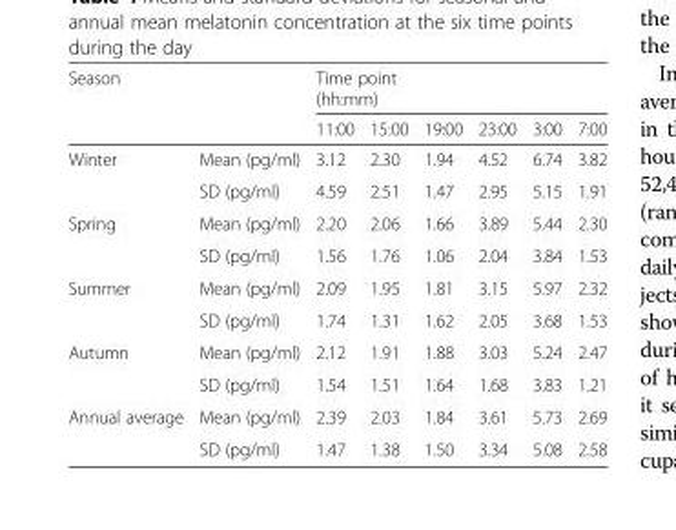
<table><thead><tr><td rowspan="2">Season</td><td rowspan="2"></td><td colspan="6">Time point (hh:mm)</td></tr><tr><td>11:00</td><td>15:00</td><td>19:00</td><td>23:00</td><td>3:00</td><td>7:00</td></tr></thead><tbody><tr><td rowspan="2">Winter</td><td>Mean (pg/ml)</td><td>3.12</td><td>2.30</td><td>1.94</td><td>4.52</td><td>6.74</td><td>3.82</td></tr><tr><td>SD (pg/ml)</td><td>4.59</td><td>2.51</td><td>1.47</td><td>2.95</td><td>5.15</td><td>1.91</td></tr><tr><td rowspan="2">Spring</td><td>Mean (pg/ml)</td><td>2.20</td><td>2.06</td><td>1.66</td><td>3.89</td><td>5.44</td><td>2.30</td></tr><tr><td>SD (pg/ml)</td><td>1.56</td><td>1.76</td><td>1.06</td><td>2.04</td><td>3.84</td><td>1.53</td></tr><tr><td rowspan="2">Summer</td><td>Mean (pg/ml)</td><td>2.09</td><td>1.95</td><td>1.81</td><td>3.15</td><td>5.97</td><td>2.32</td></tr><tr><td>SD (pg/ml)</td><td>1.74</td><td>1.31</td><td>1.62</td><td>2.05</td><td>3.68</td><td>1.53</td></tr><tr><td rowspan="2">Autumn</td><td>Mean (pg/ml)</td><td>2.12</td><td>1.91</td><td>1.88</td><td>3.03</td><td>5.24</td><td>2.47</td></tr><tr><td>SD (pg/ml)</td><td>1.54</td><td>1.51</td><td>1.64</td><td>1.68</td><td>3.83</td><td>1.21</td></tr><tr><td rowspan="2">Annual average</td><td>Mean (pg/ml)</td><td>2.39</td><td>2.03</td><td>1.84</td><td>3.61</td><td>5.73</td><td>2.69</td></tr><tr><td>SD (pg/ml)</td><td>1.47</td><td>1.38</td><td>1.50</td><td>3.34</td><td>5.08</td><td>2.58</td></tr></tbody></table>